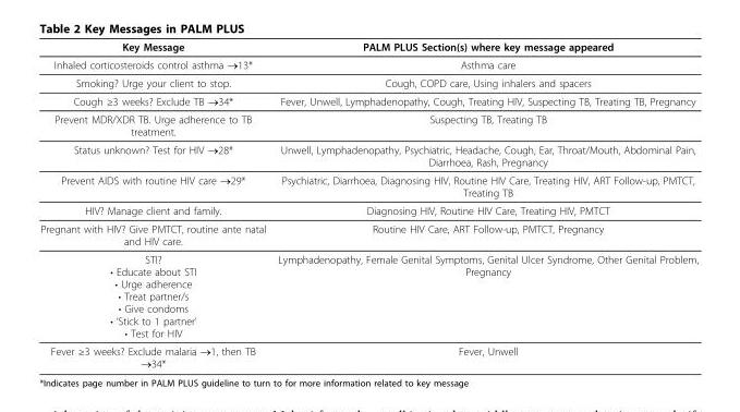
<table><thead><tr><td>Key Message</td><td>PALM PLUS Section(s) where key message appeared</td></tr></thead><tbody><tr><td>Inhaled corticosteroids control asthma →13*</td><td>Asthma care</td></tr><tr><td>Smoking? Urge your client to stop.</td><td>Cough, COPD care, Using inhalers and spacers</td></tr><tr><td>Cough ≥3 weeks? Exclude TB →34*</td><td>Fever, Unwell, Lymphadenopathy, Cough, Treating HIV, Suspecting TB, Treating TB, Pregnancy</td></tr><tr><td>Prevent MDR/XDR TB. Urge adherence to TB treatment.</td><td>Suspecting TB, Treating TB</td></tr><tr><td>Status unknown? Test for HIV →28*</td><td>Unwell, Lymphadenopathy, Psychiatric, Headache, Cough, Ear, Throat/Mouth, Abdominal Pain, Diarrhoea, Rash, Pregnancy</td></tr><tr><td>Prevent AIDS with routine HIV care →29*</td><td>Psychiatric, Diarrhoea, Diagnosing HIV, Routine HIV Care, Treating HIV, ART Follow-up, PMTCT, Treating TB</td></tr><tr><td>HIV? Manage client and family.</td><td>Diagnosing HIV, Routine HIV Care, Treating HIV, PMTCT</td></tr><tr><td>Pregnant with HIV? Give PMTCT, routine ante natal and HIV care.</td><td>Routine HIV Care, ART Follow-up, PMTCT, Pregnancy</td></tr><tr><td>STI? • Educate about STI • Urge adherence • Treat partner/s • Give condoms • ‘Stick to 1 partner’ • Test for HIV</td><td>Lymphadenopathy, Female Genital Symptoms, Genital Ulcer Syndrome, Other Genital Problem, Pregnancy</td></tr><tr><td>Fever ≥3 weeks? Exclude malaria →1, then TB →34*</td><td>Fever, Unwell</td></tr></tbody></table>